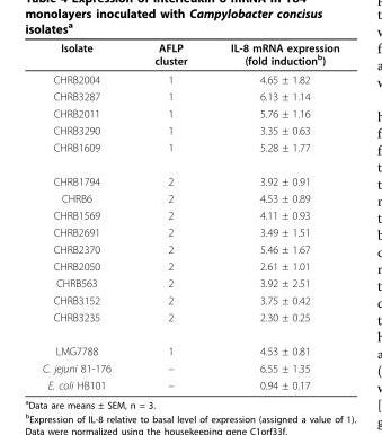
<table><thead><tr><td>Isolate</td><td>AFLP cluster</td><td>IL-8 mRNA expression (fold induction<sup>b</sup>)</td></tr></thead><tbody><tr><td>CHRB2004</td><td>1</td><td>4.65 ± 1.82</td></tr><tr><td>CHRB3287</td><td>1</td><td>6.13 ± 1.14</td></tr><tr><td>CHRB2011</td><td>1</td><td>5.76 ± 1.16</td></tr><tr><td>CHRB3290</td><td>1</td><td>3.35 ± 0.63</td></tr><tr><td>CHRB1609</td><td>1</td><td>5.28 ± 1.77</td></tr><tr><td>CHRB1794</td><td>2</td><td>3.92 ± 0.91</td></tr><tr><td>CHRB6</td><td>2</td><td>4.53 ± 0.89</td></tr><tr><td>CHRB1569</td><td>2</td><td>4.11 ± 0.93</td></tr><tr><td>CHRB2691</td><td>2</td><td>3.49 ± 1.51</td></tr><tr><td>CHRB2370</td><td>2</td><td>5.46 ± 1.67</td></tr><tr><td>CHRB2050</td><td>2</td><td>2.61 ± 1.01</td></tr><tr><td>CHRB563</td><td>2</td><td>3.92 ± 2.51</td></tr><tr><td>CHRB3152</td><td>2</td><td>3.75 ± 0.42</td></tr><tr><td>CHRB3235</td><td>2</td><td>2.30 ± 0.25</td></tr><tr><td>LMG7788</td><td>1</td><td>4.53 ± 0.81</td></tr><tr><td>C. jejuni 81-176</td><td>–</td><td>6.55 ± 1.35</td></tr><tr><td>E. coli HB101</td><td>–</td><td>0.94 ± 0.17</td></tr></tbody></table>